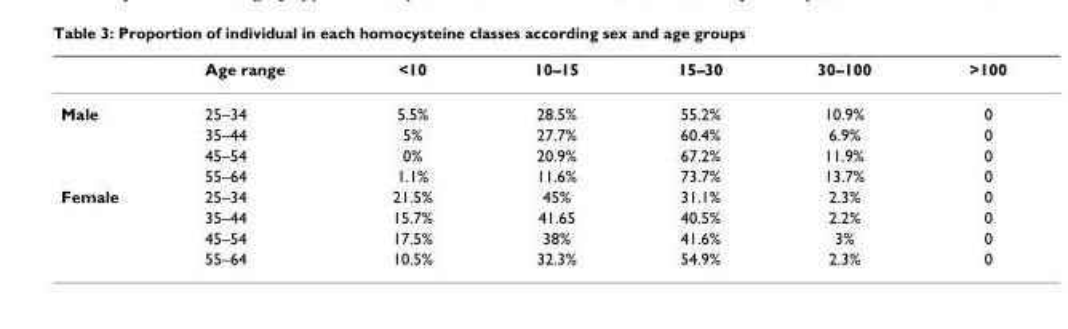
<table><thead><tr><td></td><td>Age range</td><td>&lt;10</td><td>10–15</td><td>15–30</td><td>30–100</td><td>&gt;100</td></tr></thead><tbody><tr><td rowspan="4">Male</td><td>25–34</td><td>5.5%</td><td>28.5%</td><td>55.2%</td><td>10.9%</td><td>0</td></tr><tr><td>35–44</td><td>5%</td><td>27.7%</td><td>60.4%</td><td>6.9%</td><td>0</td></tr><tr><td>45–54</td><td>0%</td><td>20.9%</td><td>67.2%</td><td>11.9%</td><td>0</td></tr><tr><td>55–64</td><td>1.1%</td><td>11.6%</td><td>73.7%</td><td>13.7%</td><td>0</td></tr><tr><td rowspan="4">Female</td><td>25–34</td><td>21.5%</td><td>45%</td><td>31.1%</td><td>2.3%</td><td>0</td></tr><tr><td>35–44</td><td>15.7%</td><td>41.65</td><td>40.5%</td><td>2.2%</td><td>0</td></tr><tr><td>45–54</td><td>17.5%</td><td>38%</td><td>41.6%</td><td>3%</td><td>0</td></tr><tr><td>55–64</td><td>10.5%</td><td>32.3%</td><td>54.9%</td><td>2.3%</td><td>0</td></tr></tbody></table>